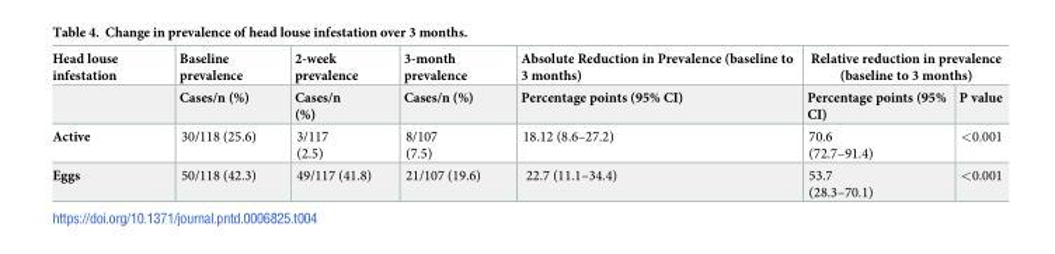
<table><thead><tr><td rowspan="2">Head louse infestation</td><td rowspan="2">Baseline prevalence Cases/n (%)</td><td rowspan="2">2-week prevalence Cases/n (%)</td><td rowspan="2">3-month prevalence Cases/n (%)</td><td rowspan="2">Absolute Reduction in Prevalence (baseline to 3 months) Percentage points (95% CI)</td><td colspan="2">Relative reduction in prevalence (baseline to 3 months)</td></tr><tr><td>Percentage points (95% CI)</td><td>P value</td></tr></thead><tbody><tr><td>Active</td><td>30/118 (25.6)</td><td>3/117 (2.5)</td><td>8/107 (7.5)</td><td>18.12 (8.6–27.2)</td><td>70.6 (72.7–91.4)</td><td>&lt;0.001</td></tr><tr><td>Eggs</td><td>50/118 (42.3)</td><td>49/117 (41.8)</td><td>21/107 (19.6)</td><td>22.7 (11.1–34.4)</td><td>53.7 (28.3–70.1)</td><td>&lt;0.001</td></tr></tbody></table>